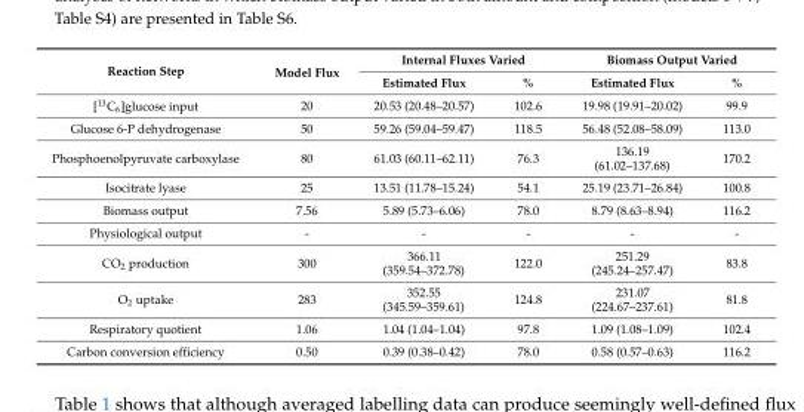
<table><thead><tr><td rowspan="2">Reaction Step</td><td rowspan="2">Model Flux</td><td colspan="2">Internal Fluxes Varied</td><td colspan="2">Biomass Output Varied</td></tr><tr><td>Estimated Flux</td><td>%</td><td>Estimated Flux</td><td>%</td></tr></thead><tbody><tr><td>[<sup>13</sup>C<sub>6</sub>]glucose input</td><td>20</td><td>20.53 (20.48–20.57)</td><td>102.6</td><td>19.98 (19.91–20.02)</td><td>99.9</td></tr><tr><td>Glucose 6-P dehydrogenase</td><td>50</td><td>59.26 (59.04–59.47)</td><td>118.5</td><td>56.48 (52.08–58.09)</td><td>113.0</td></tr><tr><td>Phosphoenolpyruvate carboxylase</td><td>80</td><td>61.03 (60.11–62.11)</td><td>76.3</td><td>136.19 (61.02–137.68)</td><td>170.2</td></tr><tr><td>Isocitrate lyase</td><td>25</td><td>13.51 (11.78–15.24)</td><td>54.1</td><td>25.19 (23.71–26.84)</td><td>100.8</td></tr><tr><td>Biomass output</td><td>7.56</td><td>5.89 (5.73–6.06)</td><td>78.0</td><td>8.79 (8.63–8.94)</td><td>116.2</td></tr><tr><td>Physiological output</td><td>-</td><td>-</td><td>-</td><td>-</td><td>-</td></tr><tr><td>CO<sub>2</sub> production</td><td>300</td><td>366.11 (359.54–372.78)</td><td>122.0</td><td>251.29 (245.24–257.47)</td><td>83.8</td></tr><tr><td>O<sub>2</sub> uptake</td><td>283</td><td>352.55 (345.59–359.61)</td><td>124.8</td><td>231.07 (224.67–237.61)</td><td>81.8</td></tr><tr><td>Respiratory quotient</td><td>1.06</td><td>1.04 (1.04–1.04)</td><td>97.8</td><td>1.09 (1.08–1.09)</td><td>102.4</td></tr><tr><td>Carbon conversion efficiency</td><td>0.50</td><td>0.39 (0.38–0.42)</td><td>78.0</td><td>0.58 (0.57–0.63)</td><td>116.2</td></tr></tbody></table>